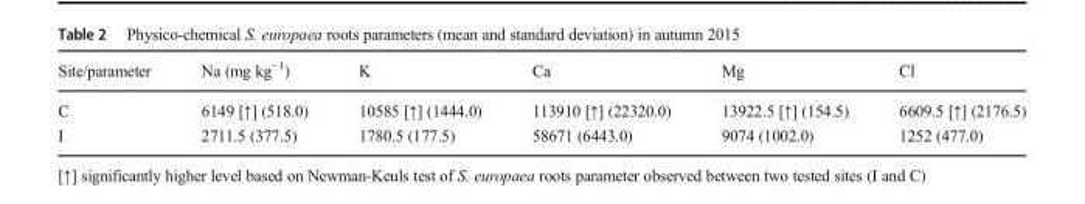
<table><thead><tr><td>Site/parameter</td><td>Na (mg kg<sup>−1</sup>)</td><td>K</td><td>Ca</td><td>Mg</td><td>Cl</td></tr></thead><tbody><tr><td>C</td><td>6149 [↑] (518.0)</td><td>10585 [↑] (1444.0)</td><td>113910 [↑] (22320.0)</td><td>13922.5 [↑] (154.5)</td><td>6609.5 [↑] (2176.5)</td></tr><tr><td>I</td><td>2711.5 (377.5)</td><td>1780.5 (177.5)</td><td>58671 (6443.0)</td><td>9074 (1002.0)</td><td>1252 (477.0)</td></tr></tbody></table>